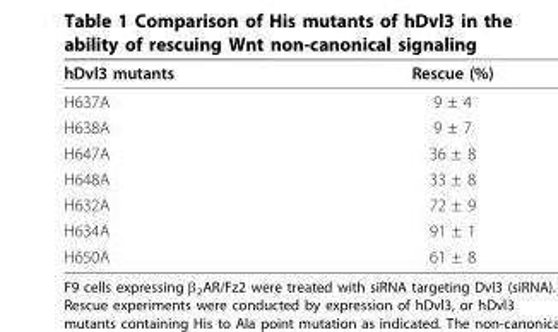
<table><thead><tr><td>hDvl3 mutants</td><td>Rescue (%)</td></tr></thead><tbody><tr><td>H637A</td><td>9 ± 4</td></tr><tr><td>H638A</td><td>9 ± 7</td></tr><tr><td>H647A</td><td>36 ± 8</td></tr><tr><td>H648A</td><td>33 ± 8</td></tr><tr><td>H632A</td><td>72 ± 9</td></tr><tr><td>H634A</td><td>91 ± 1</td></tr><tr><td>H650A</td><td>61 ± 8</td></tr></tbody></table>